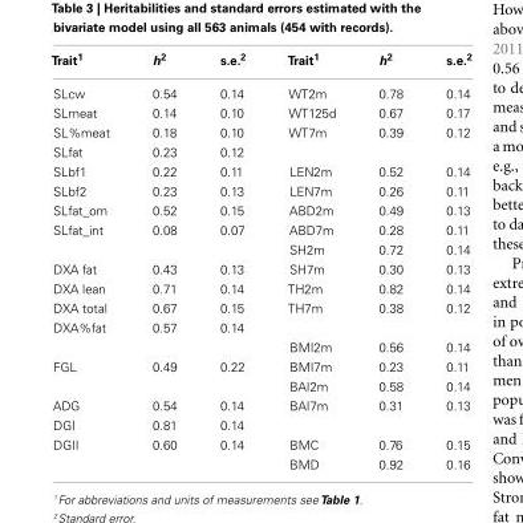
<table><thead><tr><td>Trait<sup>1</sup></td><td>h<sup>2</sup></td><td>s.e.<sup>2</sup></td><td>Trait<sup>1</sup></td><td>h<sup>2</sup></td><td>s.e.<sup>2</sup></td></tr></thead><tbody><tr><td>SLcw</td><td>0.54</td><td>0.14</td><td>WT2m</td><td>0.78</td><td>0.14</td></tr><tr><td>SLmeat</td><td>0.14</td><td>0.10</td><td>WT125d</td><td>0.67</td><td>0.17</td></tr><tr><td>SL%meat</td><td>0.18</td><td>0.10</td><td>WT7m</td><td>0.39</td><td>0.12</td></tr><tr><td>SLfat</td><td>0.23</td><td>0.12</td><td></td><td></td><td></td></tr><tr><td>SLbf1</td><td>0.22</td><td>0.11</td><td>LEN2m</td><td>0.52</td><td>0.14</td></tr><tr><td>SLbf2</td><td>0.23</td><td>0.13</td><td>LEN7m</td><td>0.26</td><td>0.11</td></tr><tr><td>SLfat_om</td><td>0.52</td><td>0.15</td><td>ABD2m</td><td>0.49</td><td>0.13</td></tr><tr><td rowspan="2">SLfat_int</td><td>0.08</td><td>0.07</td><td>ABD7m</td><td>0.28</td><td>0.11</td></tr><tr><td></td><td></td><td>SH2m</td><td>0.72</td><td>0.14</td></tr><tr><td>DXA fat</td><td>0.43</td><td>0.13</td><td>SH7m</td><td>0.30</td><td>0.13</td></tr><tr><td>DXA lean</td><td>0.71</td><td>0.14</td><td>TH2m</td><td>0.82</td><td>0.14</td></tr><tr><td>DXA total</td><td>0.67</td><td>0.15</td><td>TH7m</td><td>0.38</td><td>0.12</td></tr><tr><td rowspan="2">DXA%fat</td><td>0.57</td><td>0.14</td><td></td><td></td><td></td></tr><tr><td></td><td></td><td>BMI2m</td><td>0.56</td><td>0.14</td></tr><tr><td rowspan="2">FGL</td><td>0.49</td><td>0.22</td><td>BMI7m</td><td>0.23</td><td>0.11</td></tr><tr><td></td><td></td><td>BAI2m</td><td>0.58</td><td>0.14</td></tr><tr><td>ADG</td><td>0.54</td><td>0.14</td><td>BAI7m</td><td>0.31</td><td>0.13</td></tr><tr><td>DGI</td><td>0.81</td><td>0.14</td><td></td><td></td><td></td></tr><tr><td rowspan="2">DGII</td><td>0.60</td><td>0.14</td><td>BMC</td><td>0.76</td><td>0.15</td></tr><tr><td></td><td></td><td>BMD</td><td>0.92</td><td>0.16</td></tr></tbody></table>